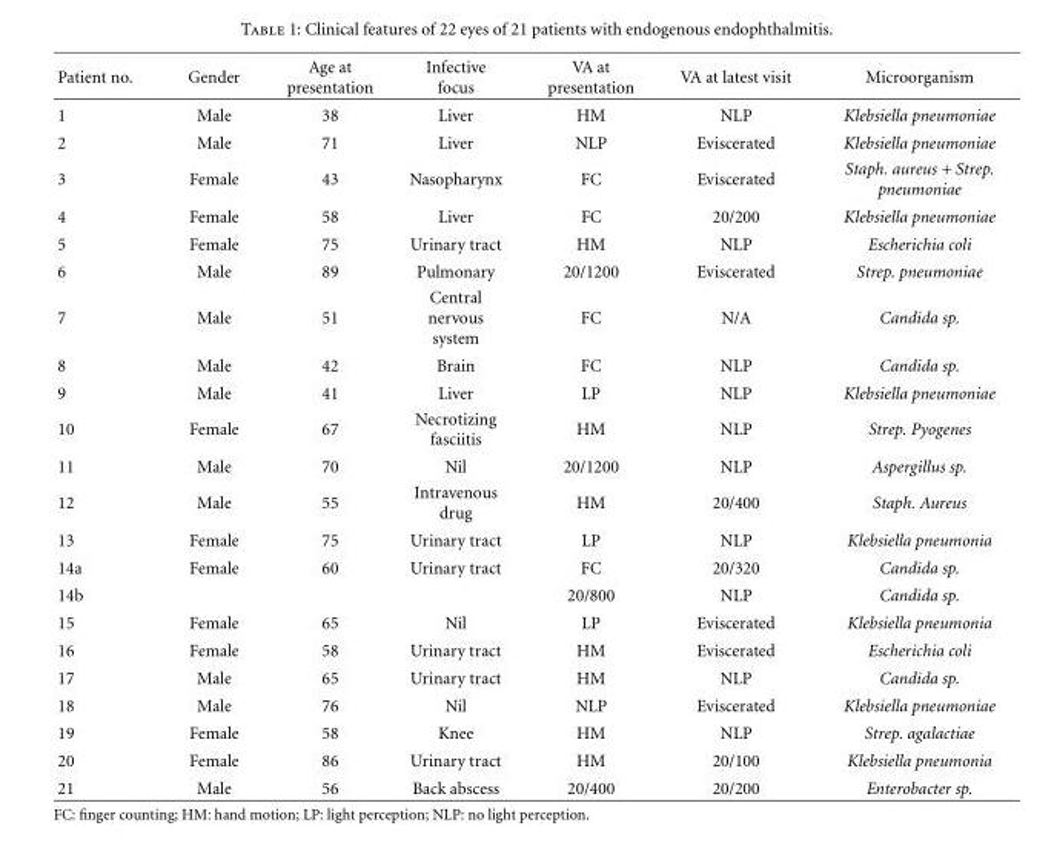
<table><thead><tr><td>Patient no.</td><td>Gender</td><td>Age at presentation</td><td>Infective focus</td><td>VA at presentation</td><td>VA at latest visit</td><td>Microorganism</td></tr></thead><tbody><tr><td>1</td><td>Male</td><td>38</td><td>Liver</td><td>HM</td><td>NLP</td><td>Klebsiella pneumoniae</td></tr><tr><td>2</td><td>Male</td><td>71</td><td>Liver</td><td>NLP</td><td>Eviscerated</td><td>Klebsiella pneumoniae</td></tr><tr><td>3</td><td>Female</td><td>43</td><td>Nasopharynx</td><td>FC</td><td>Eviscerated</td><td>Staph. aureus + Strep. pneumoniae</td></tr><tr><td>4</td><td>Female</td><td>58</td><td>Liver</td><td>FC</td><td>20/200</td><td>Klebsiella pneumoniae</td></tr><tr><td>5</td><td>Female</td><td>75</td><td>Urinary tract</td><td>HM</td><td>NLP</td><td>Escherichia coli</td></tr><tr><td>6</td><td>Male</td><td>89</td><td>Pulmonary</td><td>20/1200</td><td>Eviscerated</td><td>Strep. pneumoniae</td></tr><tr><td>7</td><td>Male</td><td>51</td><td>Central nervous system</td><td>FC</td><td>N/A</td><td>Candida sp.</td></tr><tr><td>8</td><td>Male</td><td>42</td><td>Brain</td><td>FC</td><td>NLP</td><td>Candida sp.</td></tr><tr><td>9</td><td>Male</td><td>41</td><td>Liver</td><td>LP</td><td>NLP</td><td>Klebsiella pneumoniae</td></tr><tr><td>10</td><td>Female</td><td>67</td><td>Necrotizing fasciitis</td><td>HM</td><td>NLP</td><td>Strep. Pyogenes</td></tr><tr><td>11</td><td>Male</td><td>70</td><td>Nil</td><td>20/1200</td><td>NLP</td><td>Aspergillus sp.</td></tr><tr><td>12</td><td>Male</td><td>55</td><td>Intravenous drug</td><td>HM</td><td>20/400</td><td>Staph. Aureus</td></tr><tr><td>13</td><td>Female</td><td>75</td><td>Urinary tract</td><td>LP</td><td>NLP</td><td>Klebsiella pneumonia</td></tr><tr><td>14a</td><td>Female</td><td>60</td><td>Urinary tract</td><td>FC</td><td>20/320</td><td>Candida sp.</td></tr><tr><td>14b</td><td></td><td></td><td></td><td>20/800</td><td>NLP</td><td>Candida sp.</td></tr><tr><td>15</td><td>Female</td><td>65</td><td>Nil</td><td>LP</td><td>Eviscerated</td><td>Klebsiella pneumonia</td></tr><tr><td>16</td><td>Female</td><td>58</td><td>Urinary tract</td><td>HM</td><td>Eviscerated</td><td>Escherichia coli</td></tr><tr><td>17</td><td>Male</td><td>65</td><td>Urinary tract</td><td>HM</td><td>NLP</td><td>Candida sp.</td></tr><tr><td>18</td><td>Male</td><td>76</td><td>Nil</td><td>NLP</td><td>Eviscerated</td><td>Klebsiella pneumoniae</td></tr><tr><td>19</td><td>Female</td><td>58</td><td>Knee</td><td>HM</td><td>NLP</td><td>Strep. agalactiae</td></tr><tr><td>20</td><td>Female</td><td>86</td><td>Urinary tract</td><td>HM</td><td>20/100</td><td>Klebsiella pneumonia</td></tr><tr><td>21</td><td>Male</td><td>56</td><td>Back abscess</td><td>20/400</td><td>20/200</td><td>Enterobacter sp.</td></tr></tbody></table>